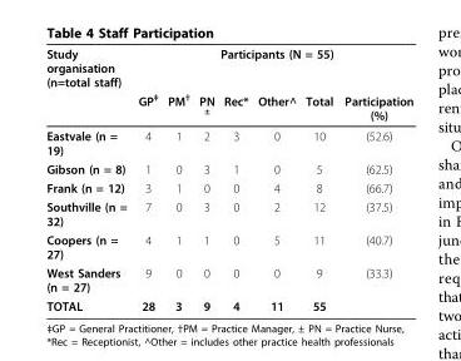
<table><thead><tr><td rowspan="2">Study organisation (n=total staff)</td><td colspan="7">Participants (N = 55)</td></tr><tr><td>GP<sup>‡</sup></td><td>PM<sup>†</sup></td><td>PN <sup>±</sup></td><td>Rec*</td><td>Other^</td><td>Total</td><td>Participation (%)</td></tr></thead><tbody><tr><td>Eastvale (n = 19)</td><td>4</td><td>1</td><td>2</td><td>3</td><td>0</td><td>10</td><td>(52.6)</td></tr><tr><td>Gibson (n = 8)</td><td>1</td><td>0</td><td>3</td><td>1</td><td>0</td><td>5</td><td>(62.5)</td></tr><tr><td>Frank (n = 12)</td><td>3</td><td>1</td><td>0</td><td>0</td><td>4</td><td>8</td><td>(66.7)</td></tr><tr><td>Southville (n = 32)</td><td>7</td><td>0</td><td>3</td><td>0</td><td>2</td><td>12</td><td>(37.5)</td></tr><tr><td>Coopers (n = 27)</td><td>4</td><td>1</td><td>1</td><td>0</td><td>5</td><td>11</td><td>(40.7)</td></tr><tr><td>West Sanders (n = 27)</td><td>9</td><td>0</td><td>0</td><td>0</td><td>0</td><td>9</td><td>(33.3)</td></tr><tr><td>TOTAL</td><td>28</td><td>3</td><td>9</td><td>4</td><td>11</td><td>55</td><td></td></tr></tbody></table>